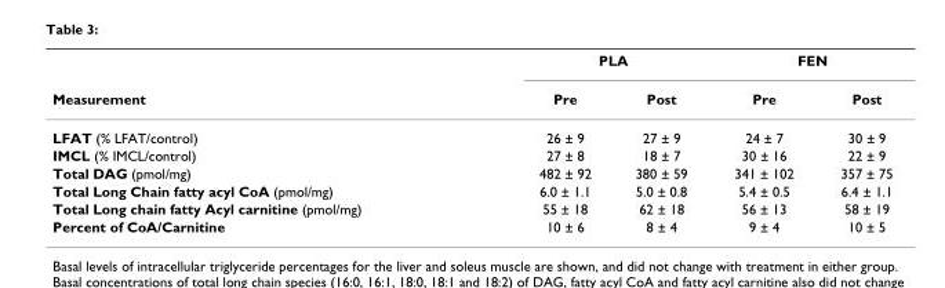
<table><thead><tr><td rowspan="2">Measurement</td><td colspan="2">PLA</td><td colspan="2">FEN</td></tr><tr><td>Pre</td><td>Post</td><td>Pre</td><td>Post</td></tr></thead><tbody><tr><td>LFAT (% LFAT/control)</td><td>26 ± 9</td><td>27 ± 9</td><td>24 ± 7</td><td>30 ± 9</td></tr><tr><td>IMCL (% IMCL/control)</td><td>27 ± 8</td><td>18 ± 7</td><td>30 ± 16</td><td>22 ± 9</td></tr><tr><td>Total DAG (pmol/mg)</td><td>482 ± 92</td><td>380 ± 59</td><td>341 ± 102</td><td>357 ± 75</td></tr><tr><td>Total Long Chain fatty acyl CoA (pmol/mg)</td><td>6.0 ± 1.1</td><td>5.0 ± 0.8</td><td>5.4 ± 0.5</td><td>6.4 ± 1.1</td></tr><tr><td>Total Long chain fatty Acyl carnitine (pmol/mg)</td><td>55 ± 18</td><td>62 ± 18</td><td>56 ± 13</td><td>58 ± 19</td></tr><tr><td>Percent of CoA/Carnitine</td><td>10 ± 6</td><td>8 ± 4</td><td>9 ± 4</td><td>10 ± 5</td></tr></tbody></table>